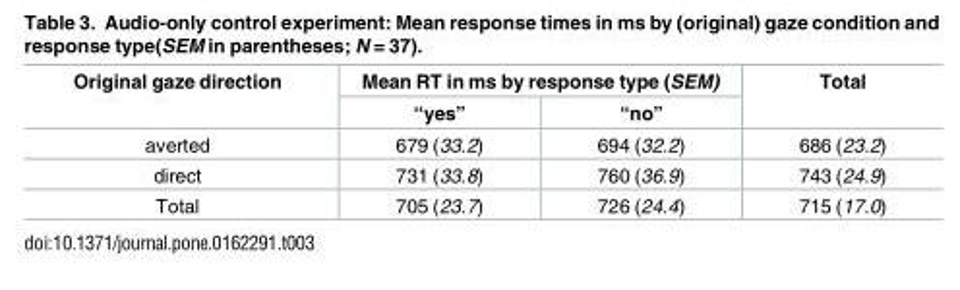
<table><thead><tr><td rowspan="2">Original gaze direction</td><td colspan="2">Mean RT in ms by response type (SEM)</td><td rowspan="2">Total</td></tr><tr><td>“yes”</td><td>“no”</td></tr></thead><tbody><tr><td>averted</td><td>679 (33.2)</td><td>694 (32.2)</td><td>686 (23.2)</td></tr><tr><td>direct</td><td>731 (33.8)</td><td>760 (36.9)</td><td>743 (24.9)</td></tr><tr><td>Total</td><td>705 (23.7)</td><td>726 (24.4)</td><td>715 (17.0)</td></tr></tbody></table>